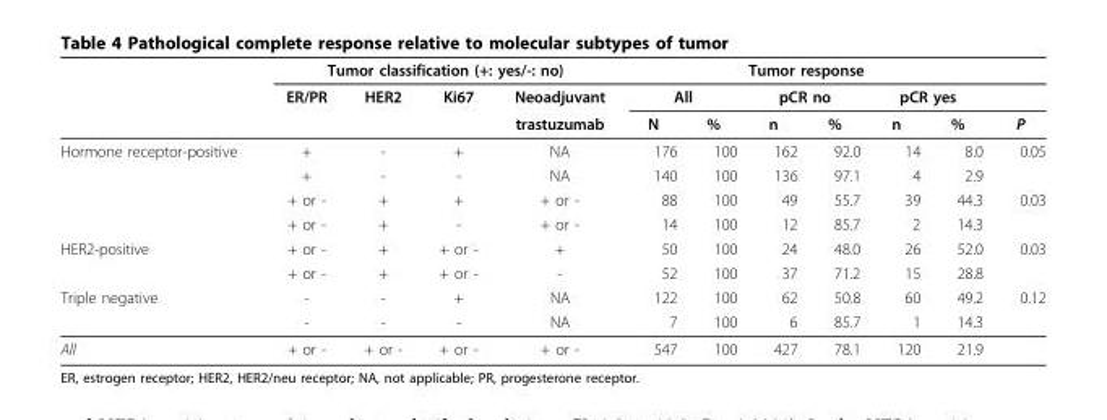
<table><thead><tr><td rowspan="3"></td><td colspan="4">Tumor classification (+: yes/-: no)</td><td colspan="6">Tumor response</td><td rowspan="3">P</td></tr><tr><td rowspan="2">ER/PR</td><td rowspan="2">HER2</td><td rowspan="2">Ki67</td><td rowspan="2">Neoadjuvant trastuzumab</td><td colspan="2">All</td><td colspan="2">pCR no</td><td colspan="2">pCR yes</td></tr><tr><td>N</td><td>%</td><td>n</td><td>%</td><td>n</td><td>%</td></tr></thead><tbody><tr><td rowspan="4">Hormone receptor-positive</td><td>+</td><td>-</td><td>+</td><td>NA</td><td>176</td><td>100</td><td>162</td><td>92.0</td><td>14</td><td>8.0</td><td>0.05</td></tr><tr><td>+</td><td>-</td><td>-</td><td>NA</td><td>140</td><td>100</td><td>136</td><td>97.1</td><td>4</td><td>2.9</td><td></td></tr><tr><td>+ or -</td><td>+</td><td>+</td><td>+ or -</td><td>88</td><td>100</td><td>49</td><td>55.7</td><td>39</td><td>44.3</td><td>0.03</td></tr><tr><td>+ or -</td><td>+</td><td>-</td><td>+ or -</td><td>14</td><td>100</td><td>12</td><td>85.7</td><td>2</td><td>14.3</td><td></td></tr><tr><td rowspan="2">HER2-positive</td><td>+ or -</td><td>+</td><td>+ or -</td><td>+</td><td>50</td><td>100</td><td>24</td><td>48.0</td><td>26</td><td>52.0</td><td>0.03</td></tr><tr><td>+ or -</td><td>+</td><td>+ or -</td><td>-</td><td>52</td><td>100</td><td>37</td><td>71.2</td><td>15</td><td>28.8</td><td></td></tr><tr><td rowspan="2">Triple negative</td><td>-</td><td>-</td><td>+</td><td>NA</td><td>122</td><td>100</td><td>62</td><td>50.8</td><td>60</td><td>49.2</td><td>0.12</td></tr><tr><td>-</td><td>-</td><td>-</td><td>NA</td><td>7</td><td>100</td><td>6</td><td>85.7</td><td>1</td><td>14.3</td><td></td></tr><tr><td>All</td><td>+ or -</td><td>+ or -</td><td>+ or -</td><td>+ or -</td><td>547</td><td>100</td><td>427</td><td>78.1</td><td>120</td><td>21.9</td><td></td></tr></tbody></table>